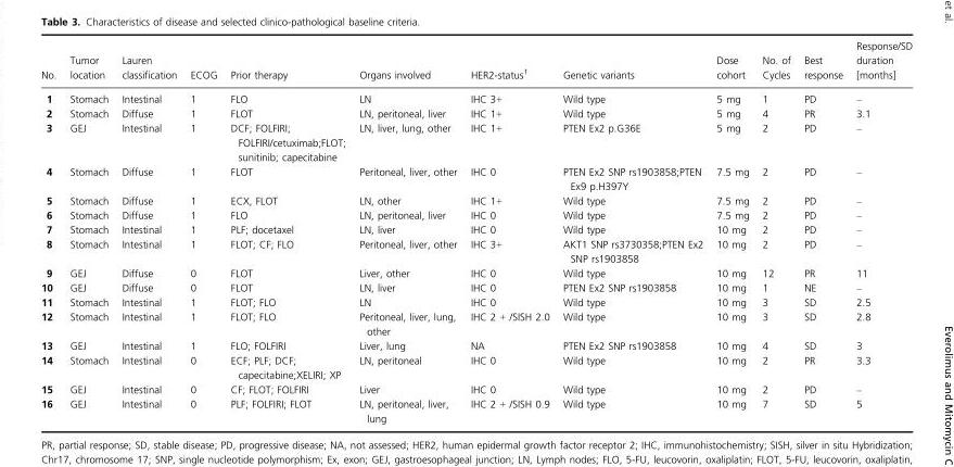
<table><thead><tr><td>No.</td><td>Tumor location</td><td>Lauren classification</td><td>ECOG</td><td>Prior therapy</td><td>Organs involved</td><td>HER2-status<sup>1</sup></td><td>Genetic variants</td><td>Dose cohort</td><td>No. of Cycles</td><td>Best response</td><td>Response/SD duration [months]</td></tr></thead><tbody><tr><td>1</td><td>Stomach</td><td>Intestinal</td><td>1</td><td>FLO</td><td>LN</td><td>IHC 3+</td><td>Wild type</td><td>5 mg</td><td>1</td><td>PD</td><td>–</td></tr><tr><td>2</td><td>Stomach</td><td>Diffuse</td><td>1</td><td>FLOT</td><td>LN, peritoneal, liver</td><td>IHC 1+</td><td>Wild type</td><td>5 mg</td><td>4</td><td>PR</td><td>3.1</td></tr><tr><td>3</td><td>GEJ</td><td>Intestinal</td><td>1</td><td>DCF; FOLFIRI; FOLFIRI/cetuximab;FLOT; sunitinib; capecitabine</td><td>LN, liver, lung, other</td><td>IHC 1+</td><td>PTEN Ex2 p.G36E</td><td>5 mg</td><td>2</td><td>PD</td><td>–</td></tr><tr><td>4</td><td>Stomach</td><td>Diffuse</td><td>1</td><td>FLOT</td><td>Peritoneal, liver, other</td><td>IHC 0</td><td>PTEN Ex2 SNP rs1903858;PTEN Ex9 p.H397Y</td><td>7.5 mg</td><td>2</td><td>PD</td><td>–</td></tr><tr><td>5</td><td>Stomach</td><td>Diffuse</td><td>1</td><td>ECX, FLOT</td><td>LN, other</td><td>IHC 1+</td><td>Wild type</td><td>7.5 mg</td><td>2</td><td>PD</td><td>–</td></tr><tr><td>6</td><td>Stomach</td><td>Diffuse</td><td>1</td><td>FLO</td><td>LN, peritoneal, liver</td><td>IHC 0</td><td>Wild type</td><td>7.5 mg</td><td>2</td><td>PD</td><td>–</td></tr><tr><td>7</td><td>Stomach</td><td>Intestinal</td><td>1</td><td>PLF; docetaxel</td><td>LN, liver</td><td>IHC 0</td><td>Wild type</td><td>10 mg</td><td>2</td><td>PD</td><td>–</td></tr><tr><td>8</td><td>Stomach</td><td>Intestinal</td><td>1</td><td>FLOT; CF; FLO</td><td>Peritoneal, liver, other</td><td>IHC 3+</td><td>AKT1 SNP rs3730358;PTEN Ex2 SNP rs1903858</td><td>10 mg</td><td>2</td><td>PD</td><td>–</td></tr><tr><td>9</td><td>GEJ</td><td>Diffuse</td><td>0</td><td>FLOT</td><td>Liver, other</td><td>IHC 0</td><td>Wild type</td><td>10 mg</td><td>12</td><td>PR</td><td>11</td></tr><tr><td>10</td><td>GEJ</td><td>Diffuse</td><td>0</td><td>FLOT</td><td>LN, liver</td><td>IHC 0</td><td>PTEN Ex2 SNP rs1903858</td><td>10 mg</td><td>1</td><td>NE</td><td>–</td></tr><tr><td>11</td><td>Stomach</td><td>Intestinal</td><td>1</td><td>FLOT; FLO</td><td>LN</td><td>IHC 0</td><td>Wild type</td><td>10 mg</td><td>3</td><td>SD</td><td>2.5</td></tr><tr><td>12</td><td>Stomach</td><td>Intestinal</td><td>1</td><td>FLOT; FLO</td><td>Peritoneal, liver, lung, other</td><td>IHC 2 + /SISH 2.0</td><td>Wild type</td><td>10 mg</td><td>3</td><td>SD</td><td>2.8</td></tr><tr><td>13</td><td>GEJ</td><td>Intestinal</td><td>1</td><td>FLO; FOLFIRI</td><td>Liver, lung</td><td>NA</td><td>PTEN Ex2 SNP rs1903858</td><td>10 mg</td><td>4</td><td>SD</td><td>3</td></tr><tr><td>14</td><td>Stomach</td><td>Intestinal</td><td>0</td><td>ECF; PLF; DCF; capecitabine;XELIRI; XP</td><td>LN, peritoneal</td><td>IHC 0</td><td>Wild type</td><td>10 mg</td><td>2</td><td>PR</td><td>3.3</td></tr><tr><td>15</td><td>GEJ</td><td>Intestinal</td><td>0</td><td>CF; FLOT; FOLFIRI</td><td>Liver</td><td>IHC 0</td><td>Wild type</td><td>10 mg</td><td>2</td><td>PD</td><td>–</td></tr><tr><td>16</td><td>GEJ</td><td>Intestinal</td><td>0</td><td>PLF; FOLFIRI; FLOT</td><td>LN, peritoneal, liver, lung</td><td>IHC 2 + /SISH 0.9</td><td>Wild type</td><td>10 mg</td><td>7</td><td>SD</td><td>5</td></tr></tbody></table>